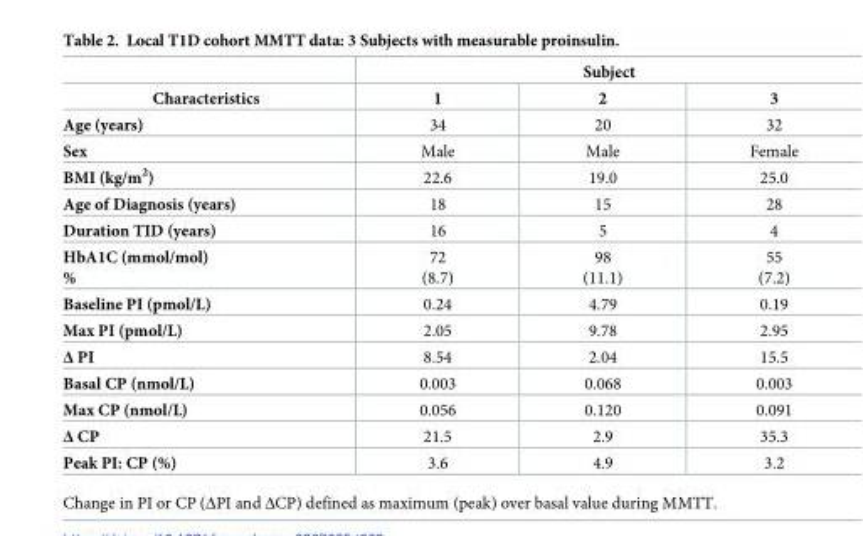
<table><thead><tr><td rowspan="2">Characteristics</td><td colspan="3">Subject</td></tr><tr><td>1</td><td>2</td><td>3</td></tr></thead><tbody><tr><td>Age (years)</td><td>34</td><td>20</td><td>32</td></tr><tr><td>Sex</td><td>Male</td><td>Male</td><td>Female</td></tr><tr><td>BMI (kg/m<sup>2</sup>)</td><td>22.6</td><td>19.0</td><td>25.0</td></tr><tr><td>Age of Diagnosis (years)</td><td>18</td><td>15</td><td>28</td></tr><tr><td>Duration TID (years)</td><td>16</td><td>5</td><td>4</td></tr><tr><td>HbA1C (mmol/mol) %</td><td>72 (8.7)</td><td>98 (11.1)</td><td>55 (7.2)</td></tr><tr><td>Baseline PI (pmol/L)</td><td>0.24</td><td>4.79</td><td>0.19</td></tr><tr><td>Max PI (pmol/L)</td><td>2.05</td><td>9.78</td><td>2.95</td></tr><tr><td>Δ PI</td><td>8.54</td><td>2.04</td><td>15.5</td></tr><tr><td>Basal CP (nmol/L)</td><td>0.003</td><td>0.068</td><td>0.003</td></tr><tr><td>Max CP (nmol/L)</td><td>0.056</td><td>0.120</td><td>0.091</td></tr><tr><td>Δ CP</td><td>21.5</td><td>2.9</td><td>35.3</td></tr><tr><td>Peak PI: CP (%)</td><td>3.6</td><td>4.9</td><td>3.2</td></tr></tbody></table>